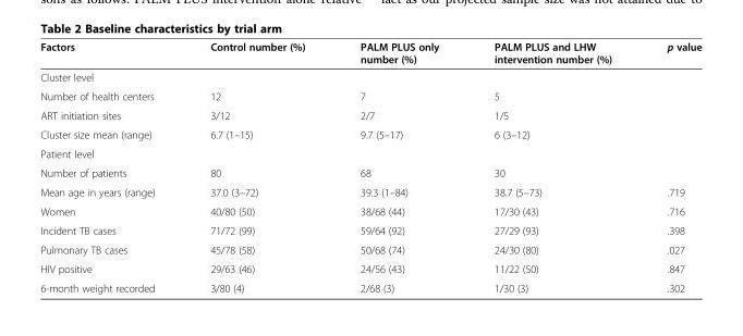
<table><thead><tr><td>Factors</td><td>Control number (%)</td><td>PALM PLUS only number (%)</td><td>PALM PLUS and LHW intervention number (%)</td><td>p value</td></tr></thead><tbody><tr><td colspan="5">Cluster level</td></tr><tr><td>Number of health centers</td><td>12</td><td>7</td><td>5</td><td></td></tr><tr><td>ART initiation sites</td><td>3/12</td><td>2/7</td><td>1/5</td><td></td></tr><tr><td>Cluster size mean (range)</td><td>6.7 (1–15)</td><td>9.7 (5–17)</td><td>6 (3–12)</td><td></td></tr><tr><td colspan="5">Patient level</td></tr><tr><td>Number of patients</td><td>80</td><td>68</td><td>30</td><td></td></tr><tr><td>Mean age in years (range)</td><td>37.0 (3–72)</td><td>39.3 (1–84)</td><td>38.7 (5–73)</td><td>.719</td></tr><tr><td>Women</td><td>40/80 (50)</td><td>38/68 (44)</td><td>17/30 (43)</td><td>.716</td></tr><tr><td>Incident TB cases</td><td>71/72 (99)</td><td>59/64 (92)</td><td>27/29 (93)</td><td>.398</td></tr><tr><td>Pulmonary TB cases</td><td>45/78 (58)</td><td>50/68 (74)</td><td>24/30 (80)</td><td>.027</td></tr><tr><td>HIV positive</td><td>29/63 (46)</td><td>24/56 (43)</td><td>11/22 (50)</td><td>.847</td></tr><tr><td>6-month weight recorded</td><td>3/80 (4)</td><td>2/68 (3)</td><td>1/30 (3)</td><td>.302</td></tr></tbody></table>